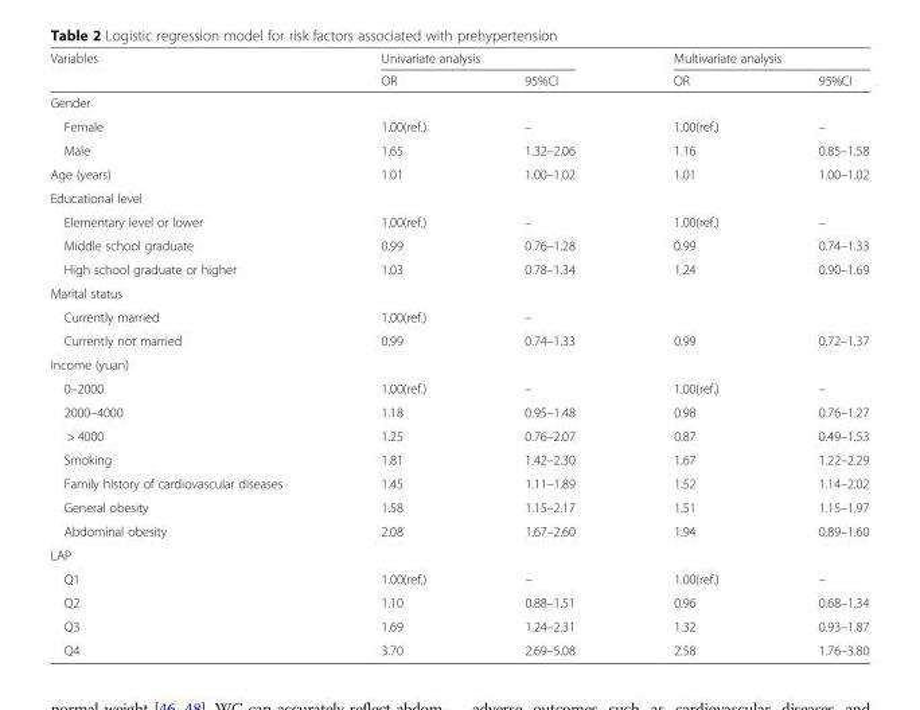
<table><thead><tr><td rowspan="2">Variables</td><td colspan="2">Univariate analysis</td><td colspan="2">Multivariate analysis</td></tr><tr><td>OR</td><td>95%CI</td><td>OR</td><td>95%CI</td></tr></thead><tbody><tr><td colspan="5">Gender</td></tr><tr><td>Female</td><td>1.00(ref.)</td><td>–</td><td>1.00(ref.)</td><td>–</td></tr><tr><td>Male</td><td>1.65</td><td>1.32–2.06</td><td>1.16</td><td>0.85–1.58</td></tr><tr><td>Age (years)</td><td>1.01</td><td>1.00–1.02</td><td>1.01</td><td>1.00–1.02</td></tr><tr><td colspan="5">Educational level</td></tr><tr><td>Elementary level or lower</td><td>1.00(ref.)</td><td>–</td><td>1.00(ref.)</td><td>–</td></tr><tr><td>Middle school graduate</td><td>0.99</td><td>0.76–1.28</td><td>0.99</td><td>0.74–1.33</td></tr><tr><td>High school graduate or higher</td><td>1.03</td><td>0.78–1.34</td><td>1.24</td><td>0.90–1.69</td></tr><tr><td colspan="5">Marital status</td></tr><tr><td>Currently married</td><td>1.00(ref.)</td><td>–</td><td></td><td></td></tr><tr><td>Currently not married</td><td>0.99</td><td>0.74–1.33</td><td>0.99</td><td>0.72–1.37</td></tr><tr><td colspan="5">Income (yuan)</td></tr><tr><td>0–2000</td><td>1.00(ref.)</td><td>–</td><td>1.00(ref.)</td><td>–</td></tr><tr><td>2000–4000</td><td>1.18</td><td>0.95–1.48</td><td>0.98</td><td>0.76–1.27</td></tr><tr><td>&gt; 4000</td><td>1.25</td><td>0.76–2.07</td><td>0.87</td><td>0.49–1.53</td></tr><tr><td>Smoking</td><td>1.81</td><td>1.42–2.30</td><td>1.67</td><td>1.22–2.29</td></tr><tr><td>Family history of cardiovascular diseases</td><td>1.45</td><td>1.11–1.89</td><td>1.52</td><td>1.14–2.02</td></tr><tr><td>General obesity</td><td>1.58</td><td>1.15–2.17</td><td>1.51</td><td>1.15–1.97</td></tr><tr><td>Abdominal obesity</td><td>2.08</td><td>1.67–2.60</td><td>1.94</td><td>0.89–1.60</td></tr><tr><td colspan="5">LAP</td></tr><tr><td>Q1</td><td>1.00(ref.)</td><td>–</td><td>1.00(ref.)</td><td>–</td></tr><tr><td>Q2</td><td>1.10</td><td>0.88–1.51</td><td>0.96</td><td>0.68–1.34</td></tr><tr><td>Q3</td><td>1.69</td><td>1.24–2.31</td><td>1.32</td><td>0.93–1.87</td></tr><tr><td>Q4</td><td>3.70</td><td>2.69–5.08</td><td>2.58</td><td>1.76–3.80</td></tr></tbody></table>